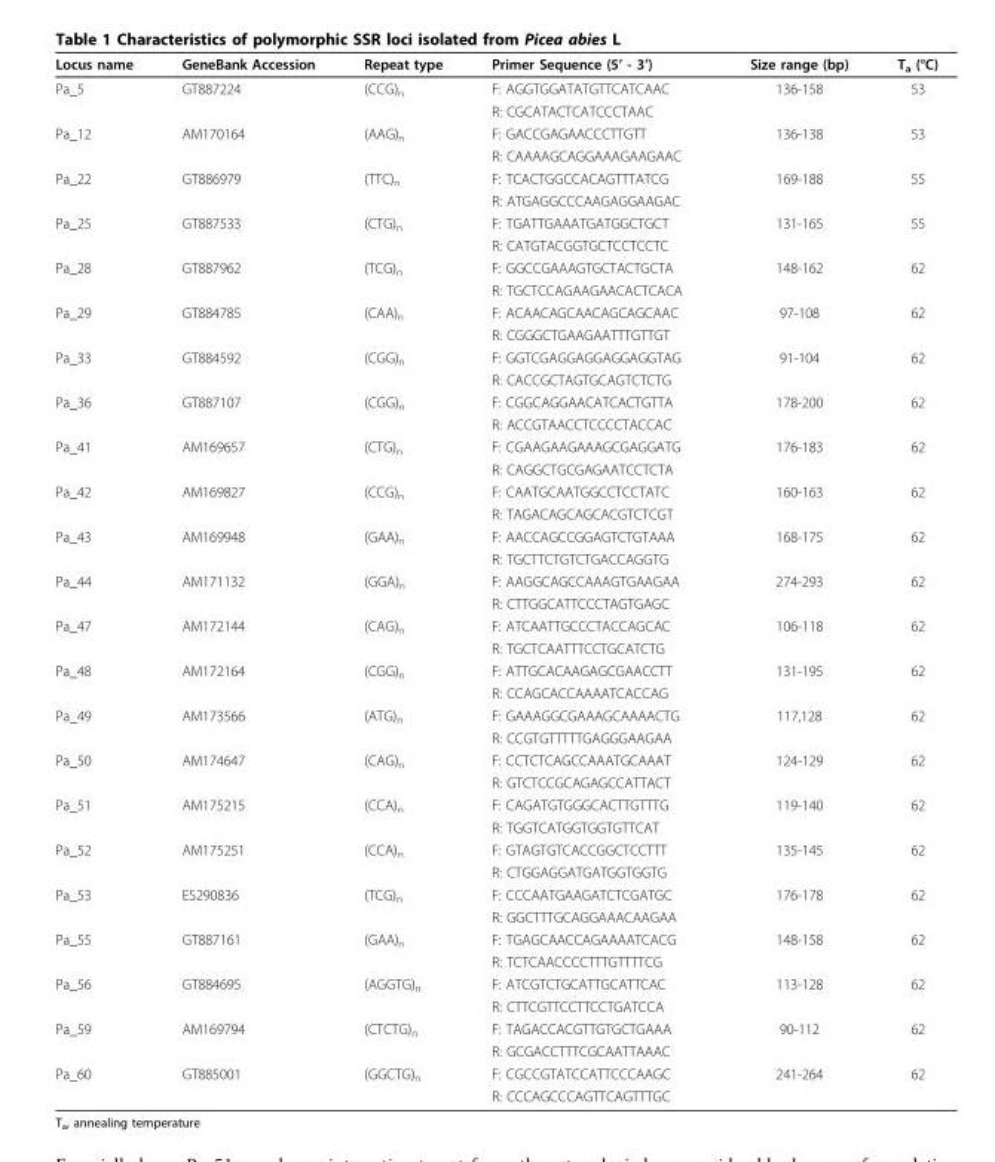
<table><thead><tr><td>Locus name</td><td>GeneBank Accession</td><td>Repeat type</td><td>Primer Sequence (5’ - 3’)</td><td>Size range (bp)</td><td>T<sub>a</sub> (°C)</td></tr></thead><tbody><tr><td rowspan="2">Pa_5</td><td>GT887224</td><td>(CCG)<sub>n</sub></td><td>F: AGGTGGATATGTTCATCAAC</td><td>136-158</td><td>53</td></tr><tr><td></td><td></td><td>R: CGCATACTCATCCCTAAC</td><td></td><td></td></tr><tr><td rowspan="2">Pa_12</td><td>AM170164</td><td>(AAG)<sub>n</sub></td><td>F: GACCGAGAACCCTTGTT</td><td>136-138</td><td>53</td></tr><tr><td></td><td></td><td>R: CAAAAGCAGGAAAGAAGAAC</td><td></td><td></td></tr><tr><td rowspan="2">Pa_22</td><td>GT886979</td><td>(TTC)<sub>n</sub></td><td>F: TCACTGGCCACAGTTTATCG</td><td>169-188</td><td>55</td></tr><tr><td></td><td></td><td>R: ATGAGGCCCAAGAGGAAGAC</td><td></td><td></td></tr><tr><td rowspan="2">Pa_25</td><td>GT887533</td><td>(CTG)<sub>n</sub></td><td>F: TGATTGAAATGATGGCTGCT</td><td>131-165</td><td>55</td></tr><tr><td></td><td></td><td>R: CATGTACGGTGCTCCTCCTC</td><td></td><td></td></tr><tr><td rowspan="2">Pa_28</td><td>GT887962</td><td>(TCG)<sub>n</sub></td><td>F: GGCCGAAAGTGCTACTGCTA</td><td>148-162</td><td>62</td></tr><tr><td></td><td></td><td>R: TGCTCCAGAAGAACACTCACA</td><td></td><td></td></tr><tr><td rowspan="2">Pa_29</td><td>GT884785</td><td>(CAA)<sub>n</sub></td><td>F: ACAACAGCAACAGCAGCAAC</td><td>97-108</td><td>62</td></tr><tr><td></td><td></td><td>R: CGGGCTGAAGAATTTGTTGT</td><td></td><td></td></tr><tr><td rowspan="2">Pa_33</td><td>GT884592</td><td>(CGG)<sub>n</sub></td><td>F: GGTCGAGGAGGAGGAGGTAG</td><td>91-104</td><td>62</td></tr><tr><td></td><td></td><td>R: CACCGCTAGTGCAGTCTCTG</td><td></td><td></td></tr><tr><td rowspan="2">Pa_36</td><td>GT887107</td><td>(CGG)<sub>n</sub></td><td>F: CGGCAGGAACATCACTGTTA</td><td>178-200</td><td>62</td></tr><tr><td></td><td></td><td>R: ACCGTAACCTCCCCTACCAC</td><td></td><td></td></tr><tr><td rowspan="2">Pa_41</td><td>AM169657</td><td>(CTG)<sub>n</sub></td><td>F: CGAAGAAGAAAGCGAGGATG</td><td>176-183</td><td>62</td></tr><tr><td></td><td></td><td>R: CAGGCTGCGAGAATCCTCTA</td><td></td><td></td></tr><tr><td rowspan="2">Pa_42</td><td>AM169827</td><td>(CCG)<sub>n</sub></td><td>F: CAATGCAATGGCCTCCTATC</td><td>160-163</td><td>62</td></tr><tr><td></td><td></td><td>R: TAGACAGCAGCACGTCTCGT</td><td></td><td></td></tr><tr><td rowspan="2">Pa_43</td><td>AM169948</td><td>(GAA)<sub>n</sub></td><td>F: AACCAGCCGGAGTCTGTAAA</td><td>168-175</td><td>62</td></tr><tr><td></td><td></td><td>R: TGCTTCTGTCTGACCAGGTG</td><td></td><td></td></tr><tr><td rowspan="2">Pa_44</td><td>AM171132</td><td>(GGA)<sub>n</sub></td><td>F: AAGGCAGCCAAAGTGAAGAA</td><td>274-293</td><td>62</td></tr><tr><td></td><td></td><td>R: CTTGGCATTCCCTAGTGAGC</td><td></td><td></td></tr><tr><td rowspan="2">Pa_47</td><td>AM172144</td><td>(CAG)<sub>n</sub></td><td>F: ATCAATTGCCCTACCAGCAC</td><td>106-118</td><td>62</td></tr><tr><td></td><td></td><td>R: TGCTCAATTTCCTGCATCTG</td><td></td><td></td></tr><tr><td rowspan="2">Pa_48</td><td>AM172164</td><td>(CGG)<sub>n</sub></td><td>F: ATTGCACAAGAGCGAACCTT</td><td>131-195</td><td>62</td></tr><tr><td></td><td></td><td>R: CCAGCACCAAAATCACCAG</td><td></td><td></td></tr><tr><td rowspan="2">Pa_49</td><td>AM173566</td><td>(ATG)<sub>n</sub></td><td>F: GAAAGGCGAAAGCAAAACTG</td><td>117,128</td><td>62</td></tr><tr><td></td><td></td><td>R: CCGTGTTTTTGAGGGAAGAA</td><td></td><td></td></tr><tr><td rowspan="2">Pa_50</td><td>AM174647</td><td>(CAG)<sub>n</sub></td><td>F: CCTCTCAGCCAAATGCAAAT</td><td>124-129</td><td>62</td></tr><tr><td></td><td></td><td>R: GTCTCCGCAGAGCCATTACT</td><td></td><td></td></tr><tr><td rowspan="2">Pa_51</td><td>AM175215</td><td>(CCA)<sub>n</sub></td><td>F: CAGATGTGGGCACTTGTTTG</td><td>119-140</td><td>62</td></tr><tr><td></td><td></td><td>R: TGGTCATGGTGGTGTTCAT</td><td></td><td></td></tr><tr><td rowspan="2">Pa_52</td><td>AM175251</td><td>(CCA)<sub>n</sub></td><td>F: GTAGTGTCACCGGCTCCTTT</td><td>135-145</td><td>62</td></tr><tr><td></td><td></td><td>R: CTGGAGGATGATGGTGGTG</td><td></td><td></td></tr><tr><td rowspan="2">Pa_53</td><td>ES290836</td><td>(TCG)<sub>n</sub></td><td>F: CCCAATGAAGATCTCGATGC</td><td>176-178</td><td>62</td></tr><tr><td></td><td></td><td>R: GGCTTTGCAGGAAACAAGAA</td><td></td><td></td></tr><tr><td rowspan="2">Pa_55</td><td>GT887161</td><td>(GAA)<sub>n</sub></td><td>F: TGAGCAACCAGAAAATCACG</td><td>148-158</td><td>62</td></tr><tr><td></td><td></td><td>R: TCTCAACCCCTTTGTTTTCG</td><td></td><td></td></tr><tr><td rowspan="2">Pa_56</td><td>GT884695</td><td>(AGGTG)<sub>n</sub></td><td>F: ATCGTCTGCATTGCATTCAC</td><td>113-128</td><td>62</td></tr><tr><td></td><td></td><td>R: CTTCGTTCCTTCCTGATCCA</td><td></td><td></td></tr><tr><td rowspan="2">Pa_59</td><td>AM169794</td><td>(CTCTG)<sub>n</sub></td><td>F: TAGACCACGTTGTGCTGAAA</td><td>90-112</td><td>62</td></tr><tr><td></td><td></td><td>R: GCGACCTTTCGCAATTAAAC</td><td></td><td></td></tr><tr><td rowspan="2">Pa_60</td><td>GT885001</td><td>(GGCTG)<sub>n</sub></td><td>F: CGCCGTATCCATTCCCAAGC</td><td>241-264</td><td>62</td></tr><tr><td></td><td></td><td>R: CCCAGCCCAGTTCAGTTTGC</td><td></td><td></td></tr></tbody></table>